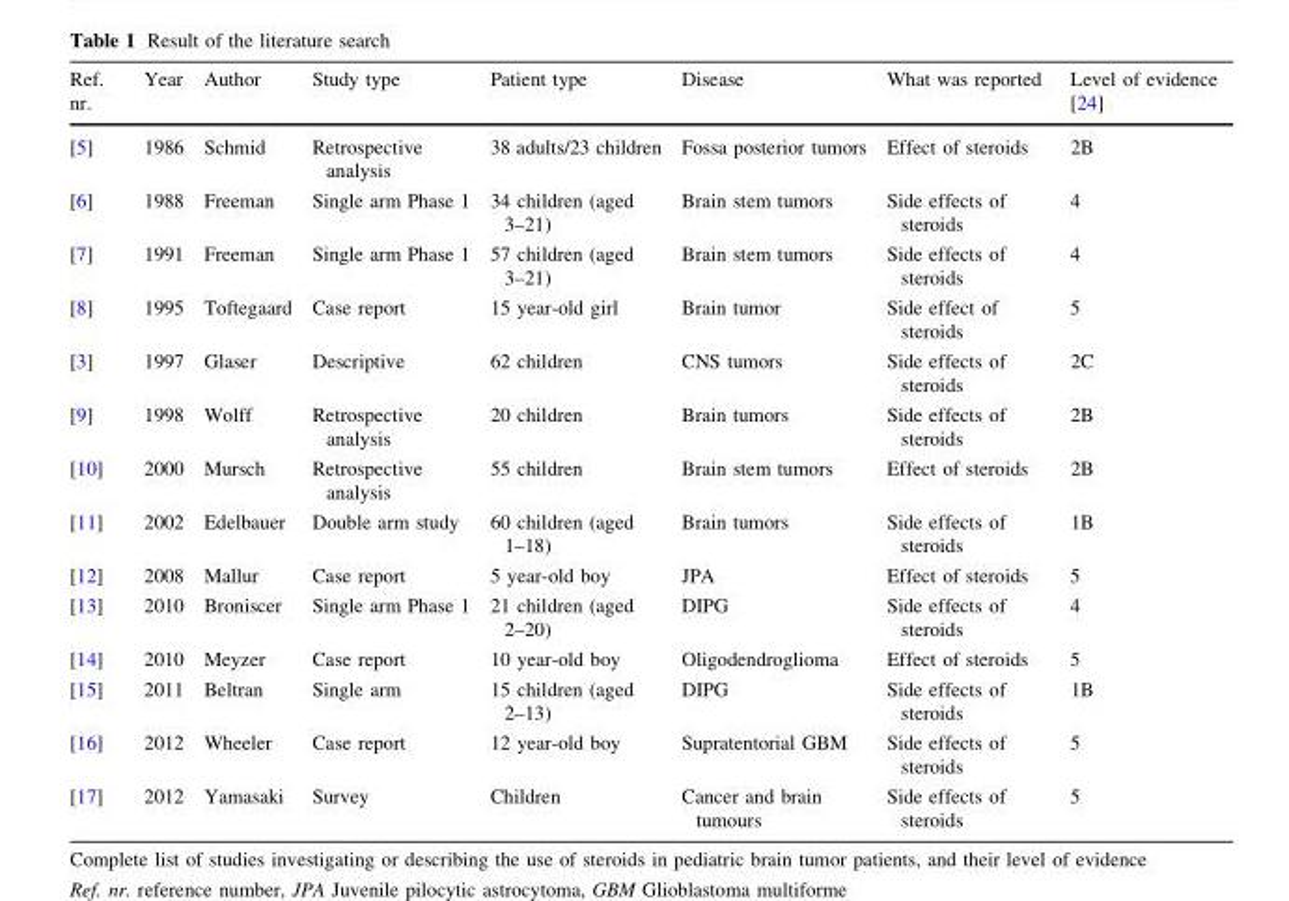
<table><thead><tr><td>Ref. nr.</td><td>Year</td><td>Author</td><td>Study type</td><td>Patient type</td><td>Disease</td><td>What was reported</td><td>Level of evidence [24]</td></tr></thead><tbody><tr><td>[5]</td><td>1986</td><td>Schmid</td><td>Retrospective analysis</td><td>38 adults/23 children</td><td>Fossa posterior tumors</td><td>Effect of steroids</td><td>2B</td></tr><tr><td>[6]</td><td>1988</td><td>Freeman</td><td>Single arm Phase 1</td><td>34 children (aged 3–21)</td><td>Brain stem tumors</td><td>Side effects of steroids</td><td>4</td></tr><tr><td>[7]</td><td>1991</td><td>Freeman</td><td>Single arm Phase 1</td><td>57 children (aged 3–21)</td><td>Brain stem tumors</td><td>Side effects of steroids</td><td>4</td></tr><tr><td>[8]</td><td>1995</td><td>Toftegaard</td><td>Case report</td><td>15 year-old girl</td><td>Brain tumor</td><td>Side effect of steroids</td><td>5</td></tr><tr><td>[3]</td><td>1997</td><td>Glaser</td><td>Descriptive</td><td>62 children</td><td>CNS tumors</td><td>Side effects of steroids</td><td>2C</td></tr><tr><td>[9]</td><td>1998</td><td>Wolff</td><td>Retrospective analysis</td><td>20 children</td><td>Brain tumors</td><td>Side effects of steroids</td><td>2B</td></tr><tr><td>[10]</td><td>2000</td><td>Mursch</td><td>Retrospective analysis</td><td>55 children</td><td>Brain stem tumors</td><td>Effect of steroids</td><td>2B</td></tr><tr><td>[11]</td><td>2002</td><td>Edelbauer</td><td>Double arm study</td><td>60 children (aged 1–18)</td><td>Brain tumors</td><td>Side effects of steroids</td><td>1B</td></tr><tr><td>[12]</td><td>2008</td><td>Mallur</td><td>Case report</td><td>5 year-old boy</td><td>JPA</td><td>Effect of steroids</td><td>5</td></tr><tr><td>[13]</td><td>2010</td><td>Broniscer</td><td>Single arm Phase 1</td><td>21 children (aged 2–20)</td><td>DIPG</td><td>Side effects of steroids</td><td>4</td></tr><tr><td>[14]</td><td>2010</td><td>Meyzer</td><td>Case report</td><td>10 year-old boy</td><td>Oligodendroglioma</td><td>Effect of steroids</td><td>5</td></tr><tr><td>[15]</td><td>2011</td><td>Beltran</td><td>Single arm</td><td>15 children (aged 2–13)</td><td>DIPG</td><td>Side effects of steroids</td><td>1B</td></tr><tr><td>[16]</td><td>2012</td><td>Wheeler</td><td>Case report</td><td>12 year-old boy</td><td>Supratentorial GBM</td><td>Side effects of steroids</td><td>5</td></tr><tr><td>[17]</td><td>2012</td><td>Yamasaki</td><td>Survey</td><td>Children</td><td>Cancer and brain tumours</td><td>Side effects of steroids</td><td>5</td></tr></tbody></table>